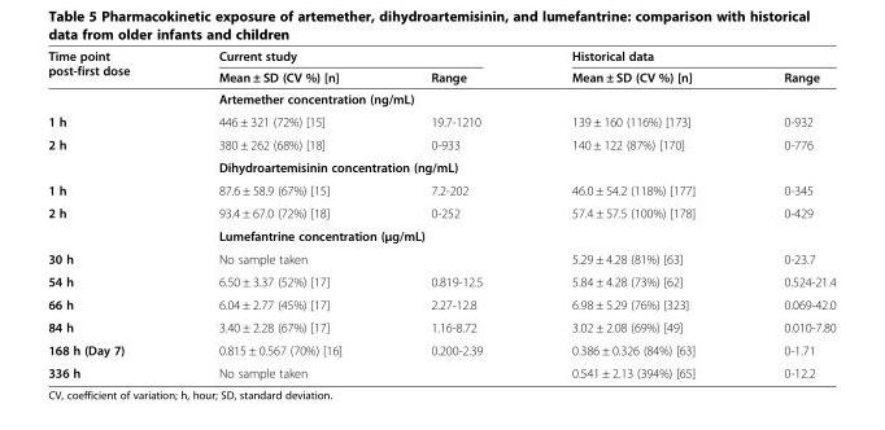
<table><thead><tr><td rowspan="2">Time point post-first dose</td><td colspan="2">Current study</td><td colspan="2">Historical data</td></tr><tr><td>Mean ± SD (CV %) [n]</td><td>Range</td><td>Mean ± SD (CV %) [n]</td><td>Range</td></tr></thead><tbody><tr><td></td><td colspan="4">Artemether concentration (ng/mL)</td></tr><tr><td>1 h</td><td>446 ± 321 (72%) [15]</td><td>19.7-1210</td><td>139 ± 160 (116%) [173]</td><td>0-932</td></tr><tr><td rowspan="2">2 h</td><td>380 ± 262 (68%) [18]</td><td>0-933</td><td>140 ± 122 (87%) [170]</td><td>0-776</td></tr><tr><td colspan="4">Dihydroartemisinin concentration (ng/mL)</td></tr><tr><td>1 h</td><td>87.6 ± 58.9 (67%) [15]</td><td>7.2-202</td><td>46.0 ± 54.2 (118%) [177]</td><td>0-345</td></tr><tr><td rowspan="2">2 h</td><td>93.4 ± 67.0 (72%) [18]</td><td>0-252</td><td>57.4 ± 57.5 (100%) [178]</td><td>0-429</td></tr><tr><td colspan="4">Lumefantrine concentration (μg/mL)</td></tr><tr><td>30 h</td><td colspan="2">No sample taken</td><td>5.29 ± 4.28 (81%) [63]</td><td>0-23.7</td></tr><tr><td>54 h</td><td>6.50 ± 3.37 (52%) [17]</td><td>0.819-12.5</td><td>5.84 ± 4.28 (73%) [62]</td><td>0.524-21.4</td></tr><tr><td>66 h</td><td>6.04 ± 2.77 (45%) [17]</td><td>2.27-12.8</td><td>6.98 ± 5.29 (76%) [323]</td><td>0.069-42.0</td></tr><tr><td>84 h</td><td>3.40 ± 2.28 (67%) [17]</td><td>1.16-8.72</td><td>3.02 ± 2.08 (69%) [49]</td><td>0.010-7.80</td></tr><tr><td>168 h (Day 7)</td><td>0.815 ± 0.567 (70%) [16]</td><td>0.200-2.39</td><td>0.386 ± 0.326 (84%) [63]</td><td>0-1.71</td></tr><tr><td>336 h</td><td colspan="2">No sample taken</td><td>0.541 ± 2.13 (394%) [65]</td><td>0-12.2</td></tr></tbody></table>